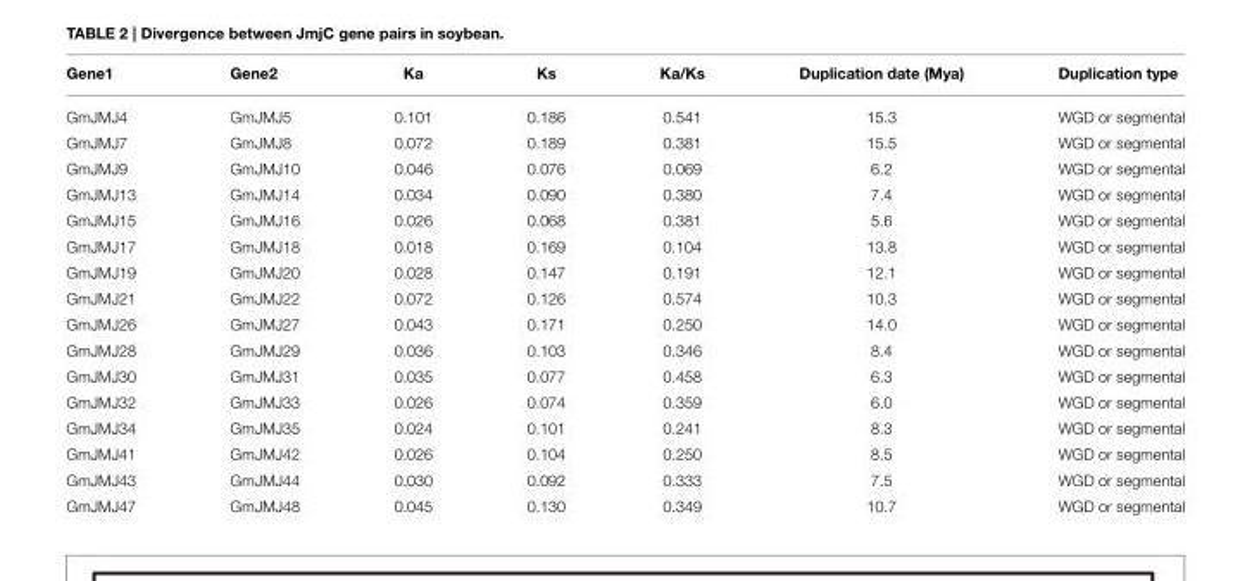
<table><thead><tr><td>Gene1</td><td>Gene2</td><td>Ka</td><td>Ks</td><td>Ka/Ks</td><td>Duplication date (Mya)</td><td>Duplication type</td></tr></thead><tbody><tr><td>GmJMJ4</td><td>GmJMJ5</td><td>0.101</td><td>0.186</td><td>0.541</td><td>15.3</td><td>WGD or segmental</td></tr><tr><td>GmJMJ7</td><td>GmJMJ8</td><td>0.072</td><td>0.189</td><td>0.381</td><td>15.5</td><td>WGD or segmental</td></tr><tr><td>GmJMJ9</td><td>GmJMJ10</td><td>0.046</td><td>0.076</td><td>0.069</td><td>6.2</td><td>WGD or segmental</td></tr><tr><td>GmJMJ13</td><td>GmJMJ14</td><td>0.034</td><td>0.090</td><td>0.380</td><td>7.4</td><td>WGD or segmental</td></tr><tr><td>GmJMJ15</td><td>GmJMJ16</td><td>0.026</td><td>0.068</td><td>0.381</td><td>5.6</td><td>WGD or segmental</td></tr><tr><td>GmJMJ17</td><td>GmJMJ18</td><td>0.018</td><td>0.169</td><td>0.104</td><td>13.8</td><td>WGD or segmental</td></tr><tr><td>GmJMJ19</td><td>GmJMJ20</td><td>0.028</td><td>0.147</td><td>0.191</td><td>12.1</td><td>WGD or segmental</td></tr><tr><td>GmJMJ21</td><td>GmJMJ22</td><td>0.072</td><td>0.126</td><td>0.574</td><td>10.3</td><td>WGD or segmental</td></tr><tr><td>GmJMJ26</td><td>GmJMJ27</td><td>0.043</td><td>0.171</td><td>0.250</td><td>14.0</td><td>WGD or segmental</td></tr><tr><td>GmJMJ28</td><td>GmJMJ29</td><td>0.036</td><td>0.103</td><td>0.346</td><td>8.4</td><td>WGD or segmental</td></tr><tr><td>GmJMJ30</td><td>GmJMJ31</td><td>0.035</td><td>0.077</td><td>0.458</td><td>6.3</td><td>WGD or segmental</td></tr><tr><td>GmJMJ32</td><td>GmJMJ33</td><td>0.026</td><td>0.074</td><td>0.359</td><td>6.0</td><td>WGD or segmental</td></tr><tr><td>GmJMJ34</td><td>GmJMJ35</td><td>0.024</td><td>0.101</td><td>0.241</td><td>8.3</td><td>WGD or segmental</td></tr><tr><td>GmJMJ41</td><td>GmJMJ42</td><td>0.026</td><td>0.104</td><td>0.250</td><td>8.5</td><td>WGD or segmental</td></tr><tr><td>GmJMJ43</td><td>GmJMJ44</td><td>0.030</td><td>0.092</td><td>0.333</td><td>7.5</td><td>WGD or segmental</td></tr><tr><td>GmJMJ47</td><td>GmJMJ48</td><td>0.045</td><td>0.130</td><td>0.349</td><td>10.7</td><td>WGD or segmental</td></tr></tbody></table>